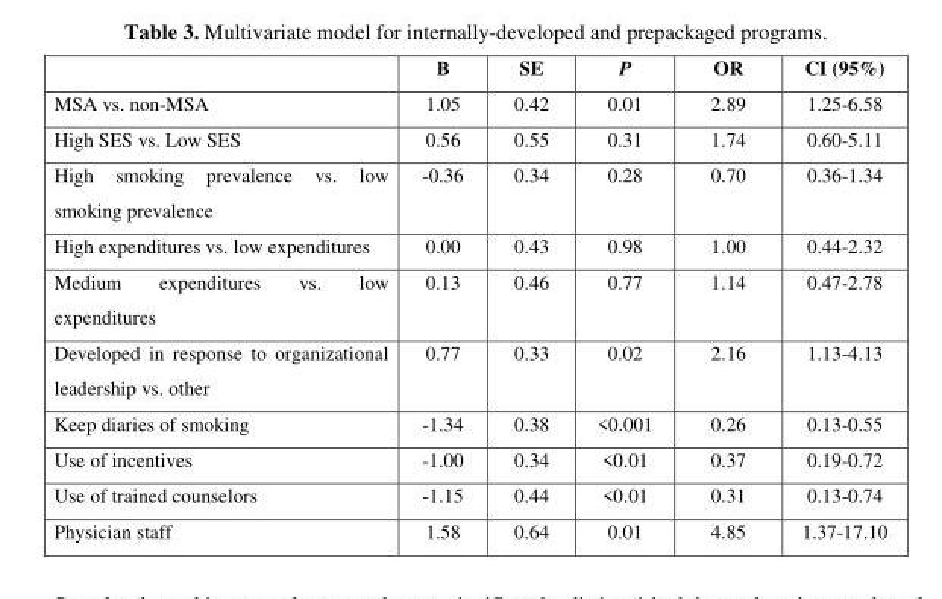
<table><thead><tr><td></td><td>Β</td><td>SE</td><td>P</td><td>OR</td><td>CI (95%)</td></tr></thead><tbody><tr><td>MSA vs. non-MSA</td><td>1.05</td><td>0.42</td><td>0.01</td><td>2.89</td><td>1.25-6.58</td></tr><tr><td>High SES vs. Low SES</td><td>0.56</td><td>0.55</td><td>0.31</td><td>1.74</td><td>0.60-5.11</td></tr><tr><td>High smoking prevalence vs. low smoking prevalence</td><td>-0.36</td><td>0.34</td><td>0.28</td><td>0.70</td><td>0.36-1.34</td></tr><tr><td>High expenditures vs. low expenditures</td><td>0.00</td><td>0.43</td><td>0.98</td><td>1.00</td><td>0.44-2.32</td></tr><tr><td>Medium expenditures vs. low expenditures</td><td>0.13</td><td>0.46</td><td>0.77</td><td>1.14</td><td>0.47-2.78</td></tr><tr><td>Developed in response to organizational leadership vs. other</td><td>0.77</td><td>0.33</td><td>0.02</td><td>2.16</td><td>1.13-4.13</td></tr><tr><td>Keep diaries of smoking</td><td>-1.34</td><td>0.38</td><td>&lt;0.001</td><td>0.26</td><td>0.13-0.55</td></tr><tr><td>Use of incentives</td><td>-1.00</td><td>0.34</td><td>&lt;0.01</td><td>0.37</td><td>0.19-0.72</td></tr><tr><td>Use of trained counselors</td><td>-1.15</td><td>0.44</td><td>&lt;0.01</td><td>0.31</td><td>0.13-0.74</td></tr><tr><td>Physician staff</td><td>1.58</td><td>0.64</td><td>0.01</td><td>4.85</td><td>1.37-17.10</td></tr></tbody></table>